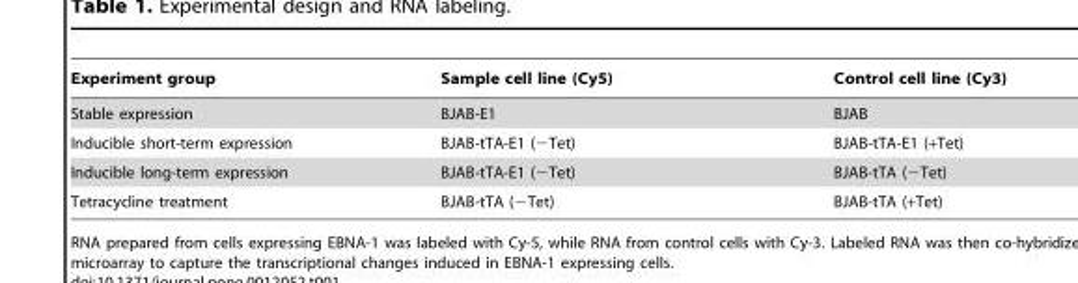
<table><thead><tr><td>Experiment group</td><td>Sample cell line (Cy5)</td><td>Control cell line (Cy3)</td></tr></thead><tbody><tr><td>Stable expression</td><td>BJAB-E1</td><td>BJAB</td></tr><tr><td>Inducible short-term expression</td><td>BJAB-tTA-E1 (−Tet)</td><td>BJAB-tTA-E1 (+Tet)</td></tr><tr><td>Inducible long-term expression</td><td>BJAB-tTA-E1 (−Tet)</td><td>BJAB-tTA (−Tet)</td></tr><tr><td>Tetracycline treatment</td><td>BJAB-tTA (−Tet)</td><td>BJAB-tTA (+Tet)</td></tr></tbody></table>